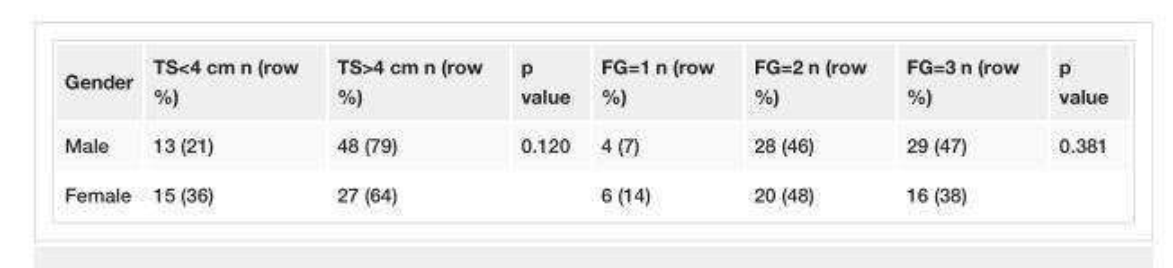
<table><tbody><tr><td>Gender</td><td>TS&lt;4 cm n (row %)</td><td>TS&gt;4 cm n (row %)</td><td>p value</td><td>FG=1 n (row %)</td><td>FG=2 n (row %)</td><td>FG=3 n (row %)</td><td>p value</td></tr><tr><td>Male</td><td>13 (21)</td><td>48 (79)</td><td>0.120</td><td>4 (7)</td><td>28 (46)</td><td>29 (47)</td><td>0.381</td></tr><tr><td>Female</td><td>15 (36)</td><td>27 (64)</td><td></td><td>6 (14)</td><td>20 (48)</td><td>16 (38)</td><td></td></tr></tbody></table>